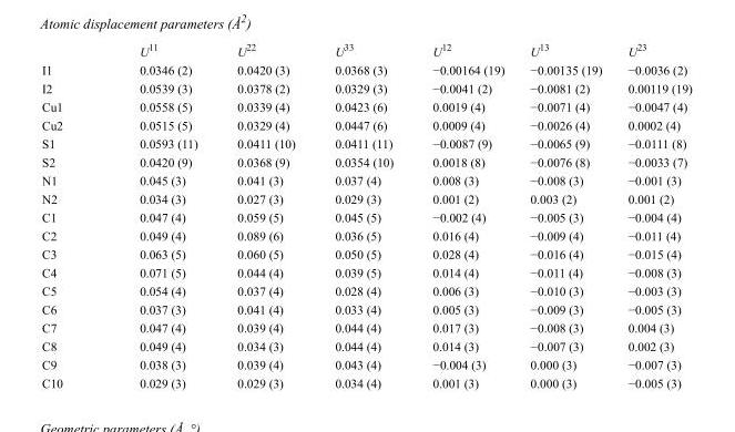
<table><thead><tr><td></td><td>U<sup>11</sup></td><td>U<sup>22</sup></td><td>U<sup>33</sup></td><td>U<sup>12</sup></td><td>U<sup>13</sup></td><td>U<sup>23</sup></td></tr></thead><tbody><tr><td>I1</td><td>0.0346 (2)</td><td>0.0420 (3)</td><td>0.0368 (3)</td><td>−0.00164 (19)</td><td>−0.00135 (19)</td><td>−0.0036 (2)</td></tr><tr><td>I2</td><td>0.0539 (3)</td><td>0.0378 (2)</td><td>0.0329 (3)</td><td>−0.0041 (2)</td><td>−0.0081 (2)</td><td>0.00119 (19)</td></tr><tr><td>Cu1</td><td>0.0558 (5)</td><td>0.0339 (4)</td><td>0.0423 (6)</td><td>0.0019 (4)</td><td>−0.0071 (4)</td><td>−0.0047 (4)</td></tr><tr><td>Cu2</td><td>0.0515 (5)</td><td>0.0329 (4)</td><td>0.0447 (6)</td><td>0.0009 (4)</td><td>−0.0026 (4)</td><td>0.0002 (4)</td></tr><tr><td>S1</td><td>0.0593 (11)</td><td>0.0411 (10)</td><td>0.0411 (11)</td><td>−0.0087 (9)</td><td>−0.0065 (9)</td><td>−0.0111 (8)</td></tr><tr><td>S2</td><td>0.0420 (9)</td><td>0.0368 (9)</td><td>0.0354 (10)</td><td>0.0018 (8)</td><td>−0.0076 (8)</td><td>−0.0033 (7)</td></tr><tr><td>N1</td><td>0.045 (3)</td><td>0.041 (3)</td><td>0.037 (4)</td><td>0.008 (3)</td><td>−0.008 (3)</td><td>−0.001 (3)</td></tr><tr><td>N2</td><td>0.034 (3)</td><td>0.027 (3)</td><td>0.029 (3)</td><td>0.001 (2)</td><td>0.003 (2)</td><td>0.001 (2)</td></tr><tr><td>C1</td><td>0.047 (4)</td><td>0.059 (5)</td><td>0.045 (5)</td><td>−0.002 (4)</td><td>−0.005 (3)</td><td>−0.004 (4)</td></tr><tr><td>C2</td><td>0.049 (4)</td><td>0.089 (6)</td><td>0.036 (5)</td><td>0.016 (4)</td><td>−0.009 (4)</td><td>−0.011 (4)</td></tr><tr><td>C3</td><td>0.063 (5)</td><td>0.060 (5)</td><td>0.050 (5)</td><td>0.028 (4)</td><td>−0.016 (4)</td><td>−0.015 (4)</td></tr><tr><td>C4</td><td>0.071 (5)</td><td>0.044 (4)</td><td>0.039 (5)</td><td>0.014 (4)</td><td>−0.011 (4)</td><td>−0.008 (3)</td></tr><tr><td>C5</td><td>0.054 (4)</td><td>0.037 (4)</td><td>0.028 (4)</td><td>0.006 (3)</td><td>−0.010 (3)</td><td>−0.003 (3)</td></tr><tr><td>C6</td><td>0.037 (3)</td><td>0.041 (4)</td><td>0.033 (4)</td><td>0.005 (3)</td><td>−0.009 (3)</td><td>−0.005 (3)</td></tr><tr><td>C7</td><td>0.047 (4)</td><td>0.039 (4)</td><td>0.044 (4)</td><td>0.017 (3)</td><td>−0.008 (3)</td><td>0.004 (3)</td></tr><tr><td>C8</td><td>0.049 (4)</td><td>0.034 (3)</td><td>0.044 (4)</td><td>0.014 (3)</td><td>−0.007 (3)</td><td>0.002 (3)</td></tr><tr><td>C9</td><td>0.038 (3)</td><td>0.039 (4)</td><td>0.043 (4)</td><td>−0.004 (3)</td><td>0.000 (3)</td><td>−0.007 (3)</td></tr><tr><td>C10</td><td>0.029 (3)</td><td>0.029 (3)</td><td>0.034 (4)</td><td>0.001 (3)</td><td>0.000 (3)</td><td>−0.005 (3)</td></tr></tbody></table>